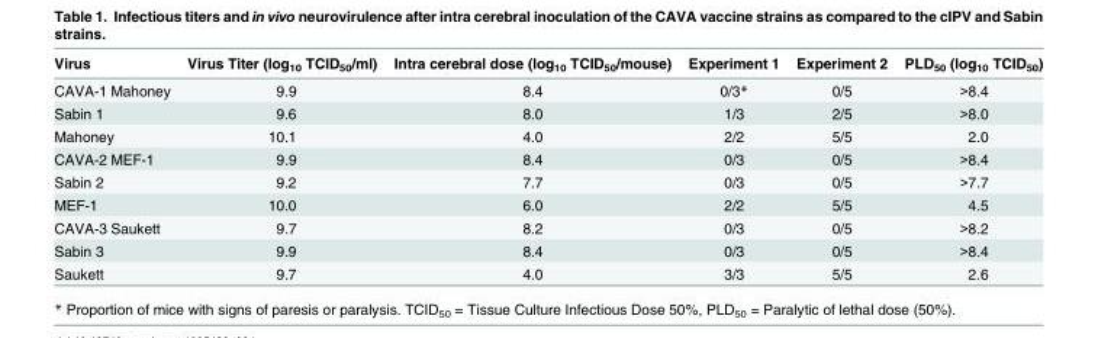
<table><thead><tr><td>Virus</td><td>Virus Titer (log<sub>10</sub> TCID<sub>50</sub>/ml)</td><td>Intra cerebral dose (log<sub>10</sub> TCID<sub>50</sub>/mouse)</td><td>Experiment 1</td><td>Experiment 2</td><td>PLD<sub>50</sub> (log<sub>10</sub> TCID<sub>50</sub>)</td></tr></thead><tbody><tr><td>CAVA-1 Mahoney</td><td>9.9</td><td>8.4</td><td>0/3*</td><td>0/5</td><td>&gt;8.4</td></tr><tr><td>Sabin 1</td><td>9.6</td><td>8.0</td><td>1/3</td><td>2/5</td><td>&gt;8.0</td></tr><tr><td>Mahoney</td><td>10.1</td><td>4.0</td><td>2/2</td><td>5/5</td><td>2.0</td></tr><tr><td>CAVA-2 MEF-1</td><td>9.9</td><td>8.4</td><td>0/3</td><td>0/5</td><td>&gt;8.4</td></tr><tr><td>Sabin 2</td><td>9.2</td><td>7.7</td><td>0/3</td><td>0/5</td><td>&gt;7.7</td></tr><tr><td>MEF-1</td><td>10.0</td><td>6.0</td><td>2/2</td><td>5/5</td><td>4.5</td></tr><tr><td>CAVA-3 Saukett</td><td>9.7</td><td>8.2</td><td>0/3</td><td>0/5</td><td>&gt;8.2</td></tr><tr><td>Sabin 3</td><td>9.9</td><td>8.4</td><td>0/3</td><td>0/5</td><td>&gt;8.4</td></tr><tr><td>Saukett</td><td>9.7</td><td>4.0</td><td>3/3</td><td>5/5</td><td>2.6</td></tr></tbody></table>